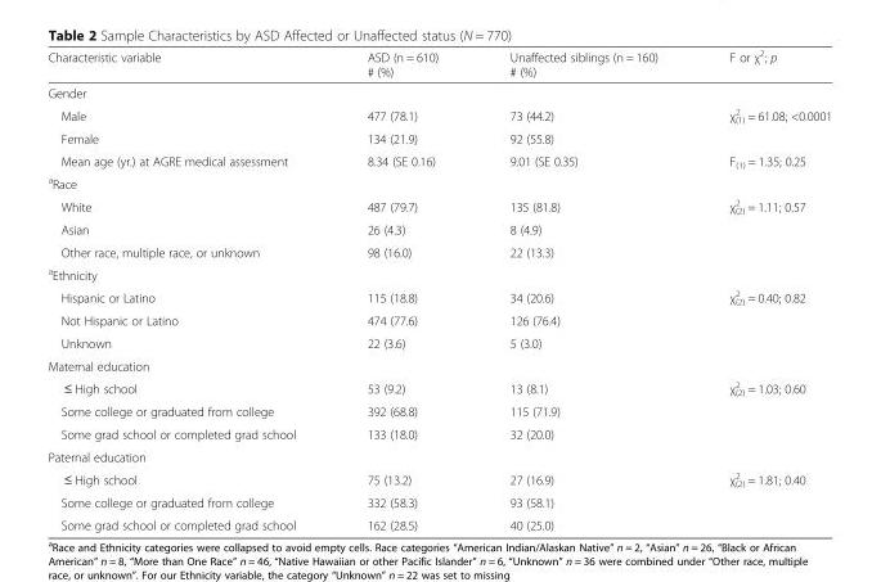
<table><thead><tr><td>Characteristic variable</td><td>ASD (n = 610) # (%)</td><td>Unaffected siblings (n = 160) # (%)</td><td>F or χ<sup>2</sup>; p</td></tr></thead><tbody><tr><td colspan="4">Gender</td></tr><tr><td>Male</td><td>477 (78.1)</td><td>73 (44.2)</td><td rowspan="2">χ<sup>2</sup> <sub>(1)</sub> = 61.08; &lt;0.0001</td></tr><tr><td>Female</td><td>134 (21.9)</td><td>92 (55.8)</td></tr><tr><td>Mean age (yr.) at AGRE medical assessment</td><td>8.34 (SE 0.16)</td><td>9.01 (SE 0.35)</td><td>F<sub>(1)</sub> = 1.35; 0.25</td></tr><tr><td colspan="4"><sup>a</sup>Race</td></tr><tr><td>White</td><td>487 (79.7)</td><td>135 (81.8)</td><td rowspan="3">χ<sup>2</sup> <sub>(2)</sub> = 1.11; 0.57</td></tr><tr><td>Asian</td><td>26 (4.3)</td><td>8 (4.9)</td></tr><tr><td>Other race, multiple race, or unknown</td><td>98 (16.0)</td><td>22 (13.3)</td></tr><tr><td colspan="4"><sup>a</sup>Ethnicity</td></tr><tr><td>Hispanic or Latino</td><td>115 (18.8)</td><td>34 (20.6)</td><td rowspan="3">χ<sup>2</sup> <sub>(2)</sub> = 0.40; 0.82</td></tr><tr><td>Not Hispanic or Latino</td><td>474 (77.6)</td><td>126 (76.4)</td></tr><tr><td>Unknown</td><td>22 (3.6)</td><td>5 (3.0)</td></tr><tr><td colspan="4">Maternal education</td></tr><tr><td>≤ High school</td><td>53 (9.2)</td><td>13 (8.1)</td><td rowspan="3">χ<sup>2</sup> <sub>(2)</sub> = 1.03; 0.60</td></tr><tr><td>Some college or graduated from college</td><td>392 (68.8)</td><td>115 (71.9)</td></tr><tr><td>Some grad school or completed grad school</td><td>133 (18.0)</td><td>32 (20.0)</td></tr><tr><td colspan="4">Paternal education</td></tr><tr><td>≤ High school</td><td>75 (13.2)</td><td>27 (16.9)</td><td rowspan="3">χ<sup>2</sup> <sub>(2)</sub> = 1.81; 0.40</td></tr><tr><td>Some college or graduated from college</td><td>332 (58.3)</td><td>93 (58.1)</td></tr><tr><td>Some grad school or completed grad school</td><td>162 (28.5)</td><td>40 (25.0)</td></tr></tbody></table>